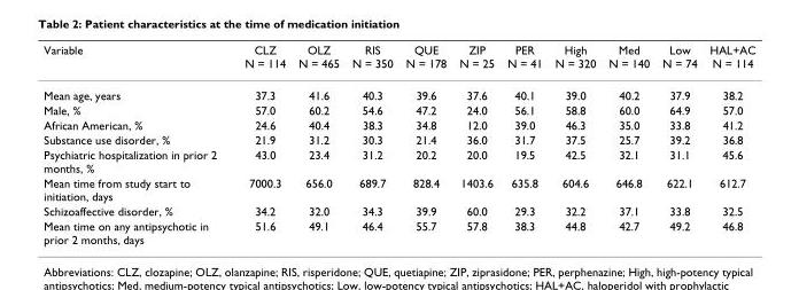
<table><thead><tr><td>Variable</td><td>CLZ N = 114</td><td>OLZ N = 465</td><td>RIS N = 350</td><td>QUE N = 178</td><td>ZIP N = 25</td><td>PER N = 41</td><td>High N = 320</td><td>Med N = 140</td><td>Low N = 74</td><td>HAL+AC N = 114</td></tr></thead><tbody><tr><td>Mean age, years</td><td>37.3</td><td>41.6</td><td>40.3</td><td>39.6</td><td>37.6</td><td>40.1</td><td>39.0</td><td>40.2</td><td>37.9</td><td>38.2</td></tr><tr><td>Male, %</td><td>57.0</td><td>60.2</td><td>54.6</td><td>47.2</td><td>24.0</td><td>56.1</td><td>58.8</td><td>60.0</td><td>64.9</td><td>57.0</td></tr><tr><td>African American, %</td><td>24.6</td><td>40.4</td><td>38.3</td><td>34.8</td><td>12.0</td><td>39.0</td><td>46.3</td><td>35.0</td><td>33.8</td><td>41.2</td></tr><tr><td>Substance use disorder, %</td><td>21.9</td><td>31.2</td><td>30.3</td><td>21.4</td><td>36.0</td><td>31.7</td><td>37.5</td><td>25.7</td><td>39.2</td><td>36.8</td></tr><tr><td>Psychiatric hospitalization in prior 2 months, %</td><td>43.0</td><td>23.4</td><td>31.2</td><td>20.2</td><td>20.0</td><td>19.5</td><td>42.5</td><td>32.1</td><td>31.1</td><td>45.6</td></tr><tr><td>Mean time from study start to initiation, days</td><td>7000.3</td><td>656.0</td><td>689.7</td><td>828.4</td><td>1403.6</td><td>635.8</td><td>604.6</td><td>646.8</td><td>622.1</td><td>612.7</td></tr><tr><td>Schizoaffective disorder, %</td><td>34.2</td><td>32.0</td><td>34.3</td><td>39.9</td><td>60.0</td><td>29.3</td><td>32.2</td><td>37.1</td><td>33.8</td><td>32.5</td></tr><tr><td>Mean time on any antipsychotic in prior 2 months, days</td><td>51.6</td><td>49.1</td><td>46.4</td><td>55.7</td><td>57.8</td><td>38.3</td><td>44.8</td><td>42.7</td><td>49.2</td><td>46.8</td></tr></tbody></table>